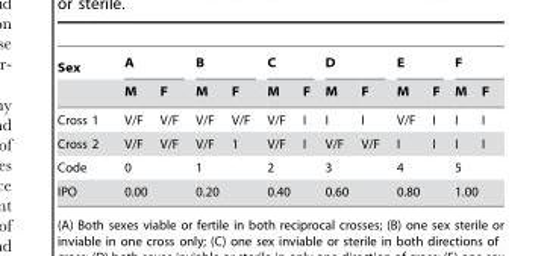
<table><thead><tr><td rowspan="2">Sex</td><td colspan="2">A</td><td colspan="2">B</td><td colspan="2">C</td><td colspan="2">D</td><td colspan="2">E</td><td colspan="2">F</td></tr><tr><td>M</td><td>F</td><td>M</td><td>F</td><td>M</td><td>F</td><td>M</td><td>F</td><td>M</td><td>F</td><td>M</td><td>F</td></tr></thead><tbody><tr><td>Cross 1</td><td>V/F</td><td>V/F</td><td>V/F</td><td>V/F</td><td>V/F</td><td>I</td><td>I</td><td>I</td><td>V/F</td><td>I</td><td>I</td><td>I</td></tr><tr><td>Cross 2</td><td>V/F</td><td>V/F</td><td>V/F</td><td>1</td><td>V/F</td><td>I</td><td>V/F</td><td>V/F</td><td>I</td><td>I</td><td>I</td><td>I</td></tr><tr><td>Code</td><td colspan="2">0</td><td colspan="2">1</td><td colspan="2">2</td><td colspan="2">3</td><td colspan="2">4</td><td colspan="2">5</td></tr><tr><td>IPO</td><td colspan="2">0.00</td><td colspan="2">0.20</td><td colspan="2">0.40</td><td colspan="2">0.60</td><td colspan="2">0.80</td><td colspan="2">1.00</td></tr></tbody></table>